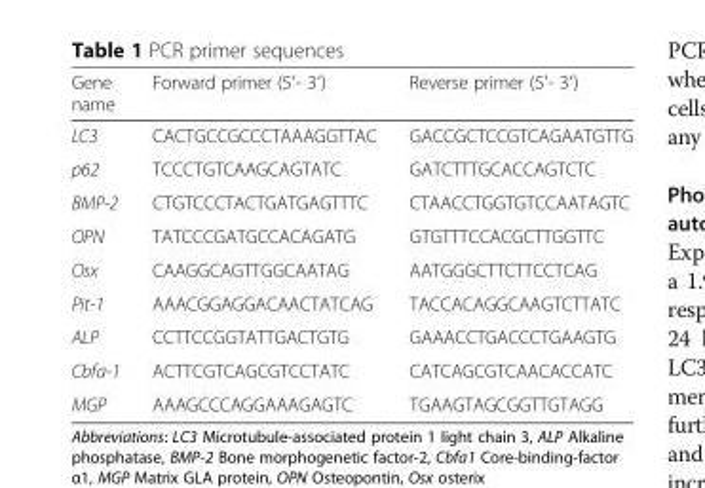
<table><thead><tr><td>Gene name</td><td>Forward primer (5′- 3′)</td><td>Reverse primer (5′- 3′)</td></tr></thead><tbody><tr><td>LC3</td><td>CACTGCCGCCCTAAAGGTTAC</td><td>GACCGCTCCGTCAGAATGTTG</td></tr><tr><td>p62</td><td>TCCCTGTCAAGCAGTATC</td><td>GATCTTTGCACCAGTCTC</td></tr><tr><td>BMP-2</td><td>CTGTCCCTACTGATGAGTTTC</td><td>CTAACCTGGTGTCCAATAGTC</td></tr><tr><td>OPN</td><td>TATCCCGATGCCACAGATG</td><td>GTGTTTCCACGCTTGGTTC</td></tr><tr><td>Osx</td><td>CAAGGCAGTTGGCAATAG</td><td>AATGGGCTTCTTCCTCAG</td></tr><tr><td>Pit-1</td><td>AAACGGAGGACAACTATCAG</td><td>TACCACAGGCAAGTCTTATC</td></tr><tr><td>ALP</td><td>CCTTCCGGTATTGACTGTG</td><td>GAAACCTGACCCTGAAGTG</td></tr><tr><td>Cbfa-1</td><td>ACTTCGTCAGCGTCCTATC</td><td>CATCAGCGTCAACACCATC</td></tr><tr><td>MGP</td><td>AAAGCCCAGGAAAGAGTC</td><td>TGAAGTAGCGGTTGTAGG</td></tr></tbody></table>